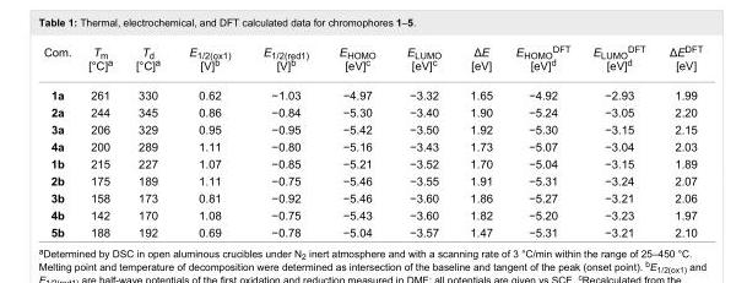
<table><tbody><tr><td>Com.</td><td>T<sub>m</sub> [°C]<sup>a</sup></td><td>T<sub>d</sub> [°C]<sup>a</sup></td><td>E<sub>1/2(ox1)</sub> [V]<sup>b</sup></td><td>E<sub>1/2(red1)</sub> [V]<sup>b</sup></td><td>E<sub>HOMO</sub> [eV]<sup>c</sup></td><td>E<sub>LUMO</sub> [eV]<sup>c</sup></td><td>ΔE [eV]</td><td>E<sub>HOMO</sub><sup>DFT</sup> [eV]<sup>d</sup></td><td>E<sub>LUMO</sub><sup>DFT</sup> [eV]<sup>d</sup></td><td>ΔE<sup>DFT</sup> [eV]</td></tr><tr><td>1a</td><td>261</td><td>330</td><td>0.62</td><td>−1.03</td><td>−4.97</td><td>−3.32</td><td>1.65</td><td>−4.92</td><td>−2.93</td><td>1.99</td></tr><tr><td>2a</td><td>244</td><td>345</td><td>0.86</td><td>−0.84</td><td>−5.30</td><td>−3.40</td><td>1.90</td><td>−5.24</td><td>−3.05</td><td>2.20</td></tr><tr><td>3a</td><td>206</td><td>329</td><td>0.95</td><td>−0.95</td><td>−5.42</td><td>−3.50</td><td>1.92</td><td>−5.30</td><td>−3.15</td><td>2.15</td></tr><tr><td>4a</td><td>200</td><td>289</td><td>1.11</td><td>−0.80</td><td>−5.16</td><td>−3.43</td><td>1.73</td><td>−5.07</td><td>−3.04</td><td>2.03</td></tr><tr><td>1b</td><td>215</td><td>227</td><td>1.07</td><td>−0.85</td><td>−5.21</td><td>−3.52</td><td>1.70</td><td>−5.04</td><td>−3.15</td><td>1.89</td></tr><tr><td>2b</td><td>175</td><td>189</td><td>1.11</td><td>−0.75</td><td>−5.46</td><td>−3.55</td><td>1.91</td><td>−5.31</td><td>−3.24</td><td>2.07</td></tr><tr><td>3b</td><td>158</td><td>173</td><td>0.81</td><td>−0.92</td><td>−5.46</td><td>−3.60</td><td>1.86</td><td>−5.27</td><td>−3.21</td><td>2.06</td></tr><tr><td>4b</td><td>142</td><td>170</td><td>1.08</td><td>−0.75</td><td>−5.43</td><td>−3.60</td><td>1.82</td><td>−5.20</td><td>−3.23</td><td>1.97</td></tr><tr><td>5b</td><td>188</td><td>192</td><td>0.69</td><td>−0.78</td><td>−5.04</td><td>−3.57</td><td>1.47</td><td>−5.31</td><td>−3.21</td><td>2.10</td></tr></tbody></table>